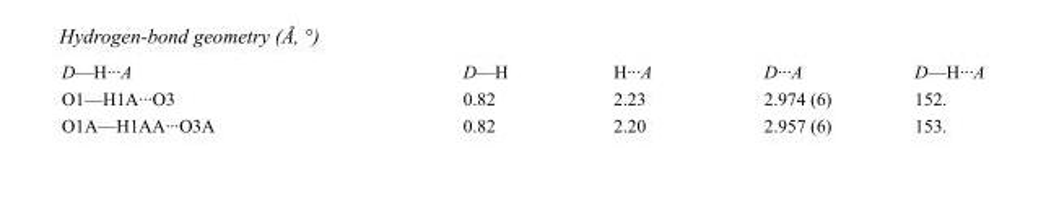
<table><tbody><tr><td>D—H···A</td><td>D—H</td><td>H···A</td><td>D···A</td><td>D—H···A</td></tr><tr><td>O1—H1A···O3</td><td>0.82</td><td>2.23</td><td>2.974 (6)</td><td>152.</td></tr><tr><td>O1A—H1AA···O3A</td><td>0.82</td><td>2.20</td><td>2.957 (6)</td><td>153.</td></tr></tbody></table>